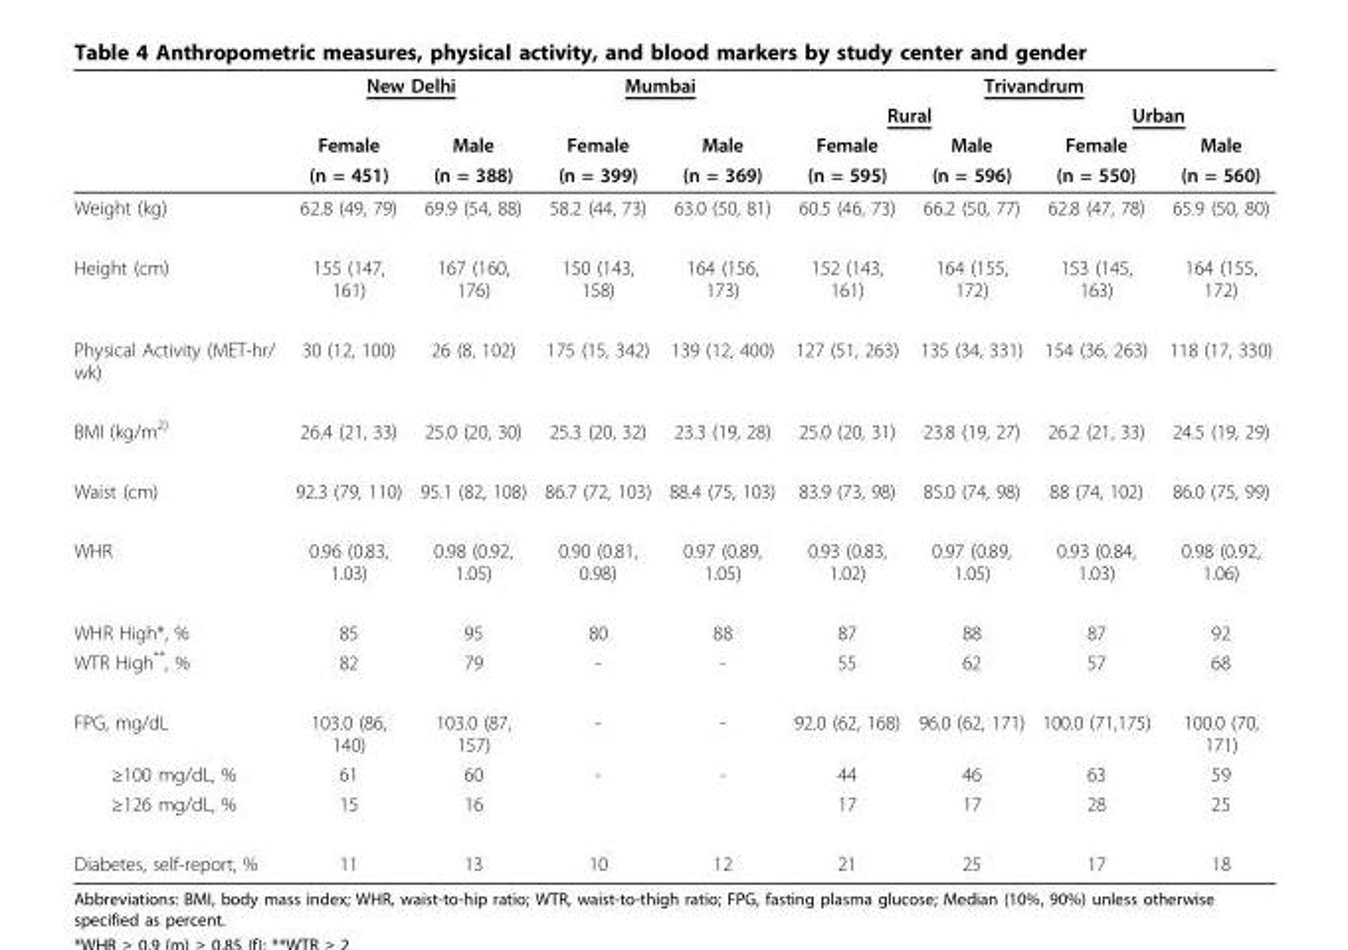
<table><thead><tr><td rowspan="4"></td><td colspan="2">New Delhi</td><td colspan="2">Mumbai</td><td colspan="4">Trivandrum</td></tr><tr><td rowspan="3">Female (n = 451)</td><td rowspan="3">Male (n = 388)</td><td rowspan="3">Female (n = 399)</td><td rowspan="3">Male (n = 369)</td><td colspan="2">Rural</td><td colspan="2">Urban</td></tr><tr><td rowspan="2">Female (n = 595)</td><td rowspan="2">Male (n = 596)</td><td rowspan="2">Female (n = 550)</td><td rowspan="2">Male (n = 560)</td></tr><tr></tr></thead><tbody><tr><td>Weight (kg)</td><td>62.8 (49, 79)</td><td>69.9 (54, 88)</td><td>58.2 (44, 73)</td><td>63.0 (50, 81)</td><td>60.5 (46, 73)</td><td>66.2 (50, 77)</td><td>62.8 (47, 78)</td><td>65.9 (50, 80)</td></tr><tr><td>Height (cm)</td><td>155 (147, 161)</td><td>167 (160, 176)</td><td>150 (143, 158)</td><td>164 (156, 173)</td><td>152 (143, 161)</td><td>164 (155, 172)</td><td>153 (145, 163)</td><td>164 (155, 172)</td></tr><tr><td>Physical Activity (MET-hr/ wk)</td><td>30 (12, 100)</td><td>26 (8, 102)</td><td>175 (15, 342)</td><td>139 (12, 400)</td><td>127 (51, 263)</td><td>135 (34, 331)</td><td>154 (36, 263)</td><td>118 (17, 330)</td></tr><tr><td>BMI (kg/m<sup>2)</sup></td><td>26.4 (21, 33)</td><td>25.0 (20, 30)</td><td>25.3 (20, 32)</td><td>23.3 (19, 28)</td><td>25.0 (20, 31)</td><td>23.8 (19, 27)</td><td>26.2 (21, 33)</td><td>24.5 (19, 29)</td></tr><tr><td>Waist (cm)</td><td>92.3 (79, 110)</td><td>95.1 (82, 108)</td><td>86.7 (72, 103)</td><td>88.4 (75, 103)</td><td>83.9 (73, 98)</td><td>85.0 (74, 98)</td><td>88 (74, 102)</td><td>86.0 (75, 99)</td></tr><tr><td>WHR</td><td>0.96 (0.83, 1.03)</td><td>0.98 (0.92, 1.05)</td><td>0.90 (0.81, 0.98)</td><td>0.97 (0.89, 1.05)</td><td>0.93 (0.83, 1.02)</td><td>0.97 (0.89, 1.05)</td><td>0.93 (0.84, 1.03)</td><td>0.98 (0.92, 1.06)</td></tr><tr><td>WHR High*, %</td><td>85</td><td>95</td><td>80</td><td>88</td><td>87</td><td>88</td><td>87</td><td>92</td></tr><tr><td>WTR High**, %</td><td>82</td><td>79</td><td>-</td><td>-</td><td>55</td><td>62</td><td>57</td><td>68</td></tr><tr><td>FPG, mg/dL</td><td>103.0 (86, 140)</td><td>103.0 (87, 157)</td><td>-</td><td>-</td><td>92.0 (62, 168)</td><td>96.0 (62, 171)</td><td>100.0 (71,175)</td><td>100.0 (70, 171)</td></tr><tr><td>≥100 mg/dL, %</td><td>61</td><td>60</td><td>-</td><td>-</td><td>44</td><td>46</td><td>63</td><td>59</td></tr><tr><td>≥126 mg/dL, %</td><td>15</td><td>16</td><td></td><td></td><td>17</td><td>17</td><td>28</td><td>25</td></tr><tr><td>Diabetes, self-report, %</td><td>11</td><td>13</td><td>10</td><td>12</td><td>21</td><td>25</td><td>17</td><td>18</td></tr></tbody></table>